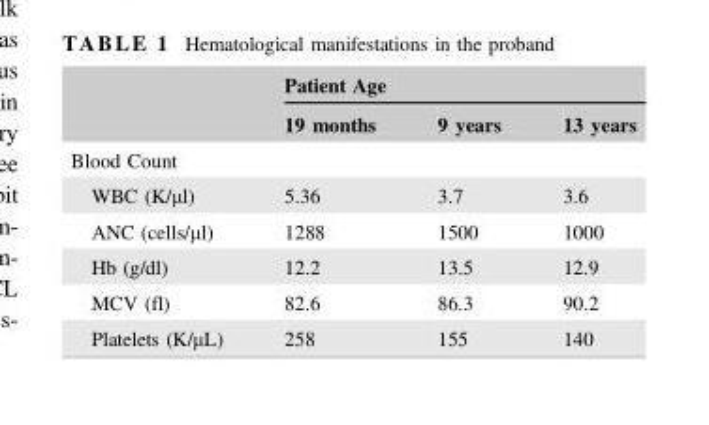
<table><thead><tr><td rowspan="2"></td><td colspan="3">Patient Age</td></tr><tr><td>19 months</td><td>9 years</td><td>13 years</td></tr></thead><tbody><tr><td colspan="4">Blood Count</td></tr><tr><td>WBC (K/μl)</td><td>5.36</td><td>3.7</td><td>3.6</td></tr><tr><td>ANC (cells/μl)</td><td>1288</td><td>1500</td><td>1000</td></tr><tr><td>Hb (g/dl)</td><td>12.2</td><td>13.5</td><td>12.9</td></tr><tr><td>MCV (fl)</td><td>82.6</td><td>86.3</td><td>90.2</td></tr><tr><td>Platelets (K/μL)</td><td>258</td><td>155</td><td>140</td></tr></tbody></table>